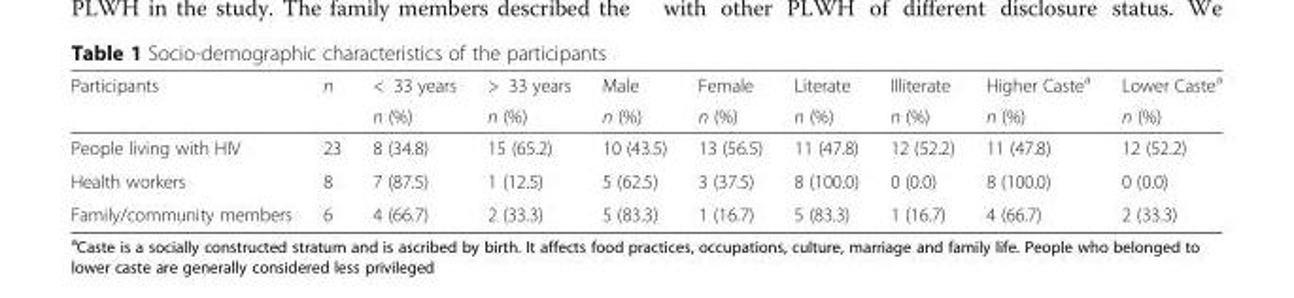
<table><thead><tr><td rowspan="2">Participants</td><td rowspan="2">n</td><td rowspan="2">&lt; 33 years n (%)</td><td rowspan="2">&gt; 33 years n (%)</td><td rowspan="2">Male n (%)</td><td rowspan="2">Female n (%)</td><td rowspan="2">Literate n (%)</td><td rowspan="2">Illiterate n (%)</td><td rowspan="2">Higher Caste<sup>a</sup> n (%)</td><td rowspan="2">Lower Caste<sup>a</sup> n (%)</td></tr><tr></tr></thead><tbody><tr><td>People living with HIV</td><td>23</td><td>8 (34.8)</td><td>15 (65.2)</td><td>10 (43.5)</td><td>13 (56.5)</td><td>11 (47.8)</td><td>12 (52.2)</td><td>11 (47.8)</td><td>12 (52.2)</td></tr><tr><td>Health workers</td><td>8</td><td>7 (87.5)</td><td>1 (12.5)</td><td>5 (62.5)</td><td>3 (37.5)</td><td>8 (100.0)</td><td>0 (0.0)</td><td>8 (100.0)</td><td>0 (0.0)</td></tr><tr><td>Family/community members</td><td>6</td><td>4 (66.7)</td><td>2 (33.3)</td><td>5 (83.3)</td><td>1 (16.7)</td><td>5 (83.3)</td><td>1 (16.7)</td><td>4 (66.7)</td><td>2 (33.3)</td></tr></tbody></table>